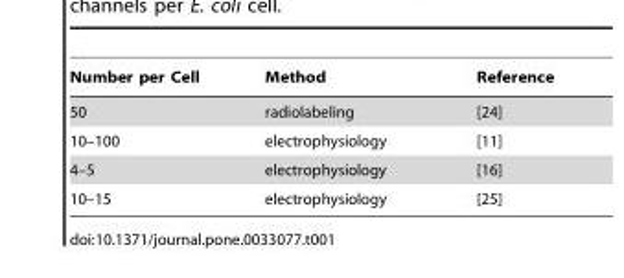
<table><thead><tr><td>Number per Cell</td><td>Method</td><td>Reference</td></tr></thead><tbody><tr><td>50</td><td>radiolabeling</td><td>[24]</td></tr><tr><td>10–100</td><td>electrophysiology</td><td>[11]</td></tr><tr><td>4–5</td><td>electrophysiology</td><td>[16]</td></tr><tr><td>10–15</td><td>electrophysiology</td><td>[25]</td></tr></tbody></table>